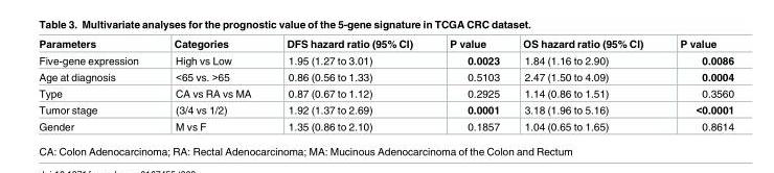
<table><thead><tr><td>Parameters</td><td>Categories</td><td>DFS hazard ratio (95% CI)</td><td>P value</td><td>OS hazard ratio (95% CI)</td><td>P value</td></tr></thead><tbody><tr><td>Five-gene expression</td><td>High vs Low</td><td>1.95 (1.27 to 3.01)</td><td>0.0023</td><td>1.84 (1.16 to 2.90)</td><td>0.0086</td></tr><tr><td>Age at diagnosis</td><td>&lt;65 vs. &gt;65</td><td>0.86 (0.56 to 1.33)</td><td>0.5103</td><td>2.47 (1.50 to 4.09)</td><td>0.0004</td></tr><tr><td>Type</td><td>CA vs RA vs MA</td><td>0.87 (0.67 to 1.12)</td><td>0.2925</td><td>1.14 (0.86 to 1.51)</td><td>0.3560</td></tr><tr><td>Tumor stage</td><td>(3/4 vs 1/2)</td><td>1.92 (1.37 to 2.69)</td><td>0.0001</td><td>3.18 (1.96 to 5.16)</td><td>&lt;0.0001</td></tr><tr><td>Gender</td><td>M vs F</td><td>1.35 (0.86 to 2.10)</td><td>0.1857</td><td>1.04 (0.65 to 1.65)</td><td>0.8614</td></tr></tbody></table>